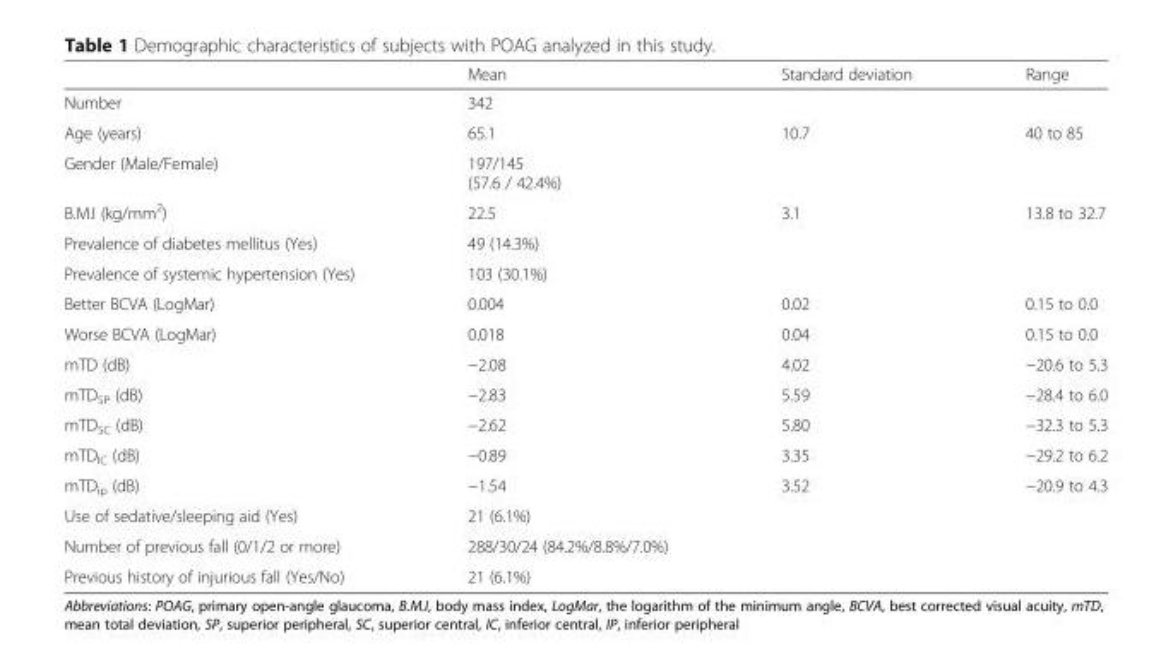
<table><thead><tr><td></td><td>Mean</td><td>Standard deviation</td><td>Range</td></tr></thead><tbody><tr><td>Number</td><td>342</td><td></td><td></td></tr><tr><td>Age (years)</td><td>65.1</td><td>10.7</td><td>40 to 85</td></tr><tr><td>Gender (Male/Female)</td><td>197/145 (57.6 / 42.4%)</td><td></td><td></td></tr><tr><td>B.M.I (kg/mm<sup>2</sup>)</td><td>22.5</td><td>3.1</td><td>13.8 to 32.7</td></tr><tr><td>Prevalence of diabetes mellitus (Yes)</td><td>49 (14.3%)</td><td></td><td></td></tr><tr><td>Prevalence of systemic hypertension (Yes)</td><td>103 (30.1%)</td><td></td><td></td></tr><tr><td>Better BCVA (LogMar)</td><td>0.004</td><td>0.02</td><td>0.15 to 0.0</td></tr><tr><td>Worse BCVA (LogMar)</td><td>0.018</td><td>0.04</td><td>0.15 to 0.0</td></tr><tr><td>mTD (dB)</td><td>−2.08</td><td>4.02</td><td>−20.6 to 5.3</td></tr><tr><td>mTD<sub>SP</sub> (dB)</td><td>−2.83</td><td>5.59</td><td>−28.4 to 6.0</td></tr><tr><td>mTD<sub>SC</sub> (dB)</td><td>−2.62</td><td>5.80</td><td>−32.3 to 5.3</td></tr><tr><td>mTD<sub>IC</sub> (dB)</td><td>−0.89</td><td>3.35</td><td>−29.2 to 6.2</td></tr><tr><td>mTD<sub>ip</sub> (dB)</td><td>−1.54</td><td>3.52</td><td>−20.9 to 4.3</td></tr><tr><td>Use of sedative/sleeping aid (Yes)</td><td>21 (6.1%)</td><td></td><td></td></tr><tr><td>Number of previous fall (0/1/2 or more)</td><td>288/30/24 (84.2%/8.8%/7.0%)</td><td></td><td></td></tr><tr><td>Previous history of injurious fall (Yes/No)</td><td>21 (6.1%)</td><td></td><td></td></tr></tbody></table>